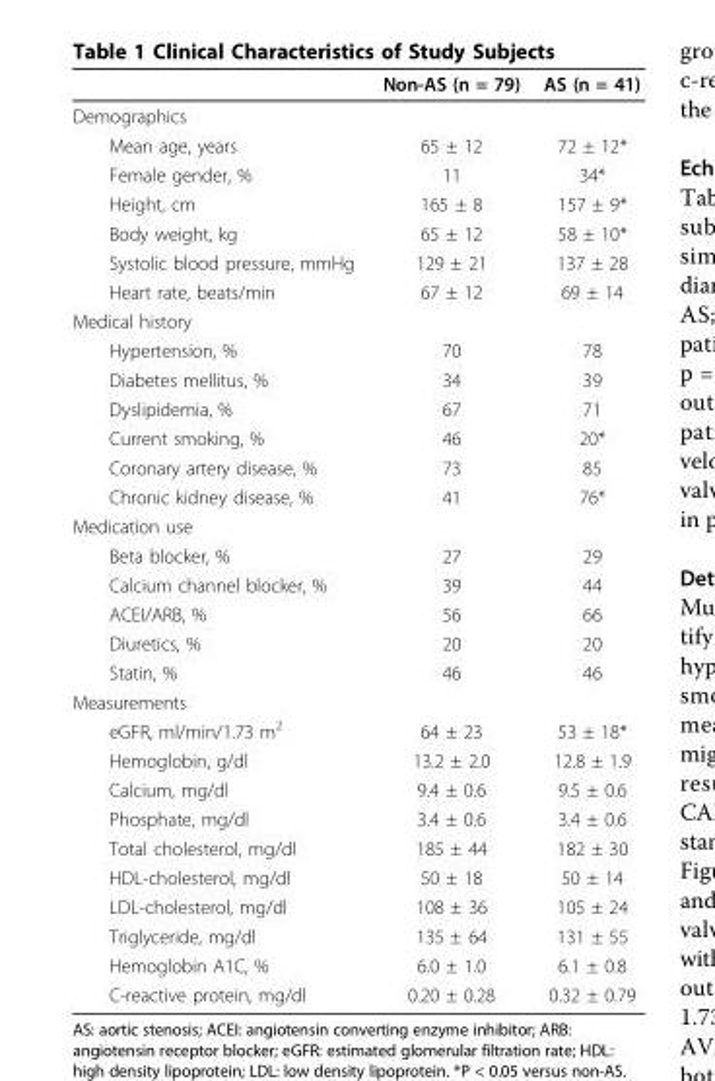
<table><thead><tr><td></td><td>Non-AS (n = 79)</td><td>AS (n = 41)</td></tr></thead><tbody><tr><td colspan="3">Demographics</td></tr><tr><td>Mean age, years</td><td>65 ± 12</td><td>72 ± 12*</td></tr><tr><td>Female gender, %</td><td>11</td><td>34*</td></tr><tr><td>Height, cm</td><td>165 ± 8</td><td>157 ± 9*</td></tr><tr><td>Body weight, kg</td><td>65 ± 12</td><td>58 ± 10*</td></tr><tr><td>Systolic blood pressure, mmHg</td><td>129 ± 21</td><td>137 ± 28</td></tr><tr><td>Heart rate, beats/min</td><td>67 ± 12</td><td>69 ± 14</td></tr><tr><td colspan="3">Medical history</td></tr><tr><td>Hypertension, %</td><td>70</td><td>78</td></tr><tr><td>Diabetes mellitus, %</td><td>34</td><td>39</td></tr><tr><td>Dyslipidemia, %</td><td>67</td><td>71</td></tr><tr><td>Current smoking, %</td><td>46</td><td>20*</td></tr><tr><td>Coronary artery disease, %</td><td>73</td><td>85</td></tr><tr><td>Chronic kidney disease, %</td><td>41</td><td>76*</td></tr><tr><td colspan="3">Medication use</td></tr><tr><td>Beta blocker, %</td><td>27</td><td>29</td></tr><tr><td>Calcium channel blocker, %</td><td>39</td><td>44</td></tr><tr><td>ACEI/ARB, %</td><td>56</td><td>66</td></tr><tr><td>Diuretics, %</td><td>20</td><td>20</td></tr><tr><td>Statin, %</td><td>46</td><td>46</td></tr><tr><td colspan="3">Measurements</td></tr><tr><td>eGFR, ml/min/1.73 m<sup>2</sup></td><td>64 ± 23</td><td>53 ± 18*</td></tr><tr><td>Hemoglobin, g/dl</td><td>13.2 ± 2.0</td><td>12.8 ± 1.9</td></tr><tr><td>Calcium, mg/dl</td><td>9.4 ± 0.6</td><td>9.5 ± 0.6</td></tr><tr><td>Phosphate, mg/dl</td><td>3.4 ± 0.6</td><td>3.4 ± 0.6</td></tr><tr><td>Total cholesterol, mg/dl</td><td>185 ± 44</td><td>182 ± 30</td></tr><tr><td>HDL-cholesterol, mg/dl</td><td>50 ± 18</td><td>50 ± 14</td></tr><tr><td>LDL-cholesterol, mg/dl</td><td>108 ± 36</td><td>105 ± 24</td></tr><tr><td>Triglyceride, mg/dl</td><td>135 ± 64</td><td>131 ± 55</td></tr><tr><td>Hemoglobin A1C, %</td><td>6.0 ± 1.0</td><td>6.1 ± 0.8</td></tr><tr><td>C-reactive protein, mg/dl</td><td>0.20 ± 0.28</td><td>0.32 ± 0.79</td></tr></tbody></table>